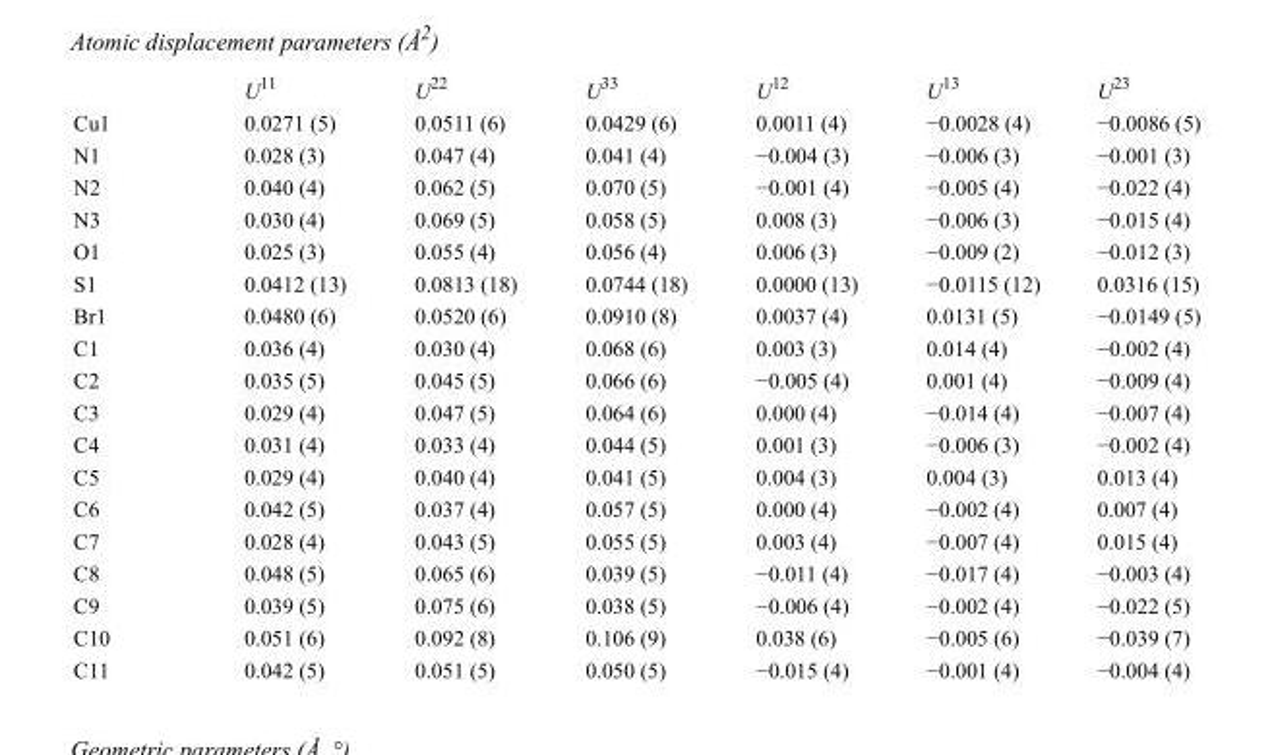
<table><thead><tr><td></td><td>U<sup>11</sup></td><td>U<sup>22</sup></td><td>U<sup>33</sup></td><td>U<sup>12</sup></td><td>U<sup>13</sup></td><td>U<sup>23</sup></td></tr></thead><tbody><tr><td>Cu1</td><td>0.0271 (5)</td><td>0.0511 (6)</td><td>0.0429 (6)</td><td>0.0011 (4)</td><td>−0.0028 (4)</td><td>−0.0086 (5)</td></tr><tr><td>N1</td><td>0.028 (3)</td><td>0.047 (4)</td><td>0.041 (4)</td><td>−0.004 (3)</td><td>−0.006 (3)</td><td>−0.001 (3)</td></tr><tr><td>N2</td><td>0.040 (4)</td><td>0.062 (5)</td><td>0.070 (5)</td><td>−0.001 (4)</td><td>−0.005 (4)</td><td>−0.022 (4)</td></tr><tr><td>N3</td><td>0.030 (4)</td><td>0.069 (5)</td><td>0.058 (5)</td><td>0.008 (3)</td><td>−0.006 (3)</td><td>−0.015 (4)</td></tr><tr><td>O1</td><td>0.025 (3)</td><td>0.055 (4)</td><td>0.056 (4)</td><td>0.006 (3)</td><td>−0.009 (2)</td><td>−0.012 (3)</td></tr><tr><td>S1</td><td>0.0412 (13)</td><td>0.0813 (18)</td><td>0.0744 (18)</td><td>0.0000 (13)</td><td>−0.0115 (12)</td><td>0.0316 (15)</td></tr><tr><td>Br1</td><td>0.0480 (6)</td><td>0.0520 (6)</td><td>0.0910 (8)</td><td>0.0037 (4)</td><td>0.0131 (5)</td><td>−0.0149 (5)</td></tr><tr><td>C1</td><td>0.036 (4)</td><td>0.030 (4)</td><td>0.068 (6)</td><td>0.003 (3)</td><td>0.014 (4)</td><td>−0.002 (4)</td></tr><tr><td>C2</td><td>0.035 (5)</td><td>0.045 (5)</td><td>0.066 (6)</td><td>−0.005 (4)</td><td>0.001 (4)</td><td>−0.009 (4)</td></tr><tr><td>C3</td><td>0.029 (4)</td><td>0.047 (5)</td><td>0.064 (6)</td><td>0.000 (4)</td><td>−0.014 (4)</td><td>−0.007 (4)</td></tr><tr><td>C4</td><td>0.031 (4)</td><td>0.033 (4)</td><td>0.044 (5)</td><td>0.001 (3)</td><td>−0.006 (3)</td><td>−0.002 (4)</td></tr><tr><td>C5</td><td>0.029 (4)</td><td>0.040 (4)</td><td>0.041 (5)</td><td>0.004 (3)</td><td>0.004 (3)</td><td>0.013 (4)</td></tr><tr><td>C6</td><td>0.042 (5)</td><td>0.037 (4)</td><td>0.057 (5)</td><td>0.000 (4)</td><td>−0.002 (4)</td><td>0.007 (4)</td></tr><tr><td>C7</td><td>0.028 (4)</td><td>0.043 (5)</td><td>0.055 (5)</td><td>0.003 (4)</td><td>−0.007 (4)</td><td>0.015 (4)</td></tr><tr><td>C8</td><td>0.048 (5)</td><td>0.065 (6)</td><td>0.039 (5)</td><td>−0.011 (4)</td><td>−0.017 (4)</td><td>−0.003 (4)</td></tr><tr><td>C9</td><td>0.039 (5)</td><td>0.075 (6)</td><td>0.038 (5)</td><td>−0.006 (4)</td><td>−0.002 (4)</td><td>−0.022 (5)</td></tr><tr><td>C10</td><td>0.051 (6)</td><td>0.092 (8)</td><td>0.106 (9)</td><td>0.038 (6)</td><td>−0.005 (6)</td><td>−0.039 (7)</td></tr><tr><td>C11</td><td>0.042 (5)</td><td>0.051 (5)</td><td>0.050 (5)</td><td>−0.015 (4)</td><td>−0.001 (4)</td><td>−0.004 (4)</td></tr></tbody></table>